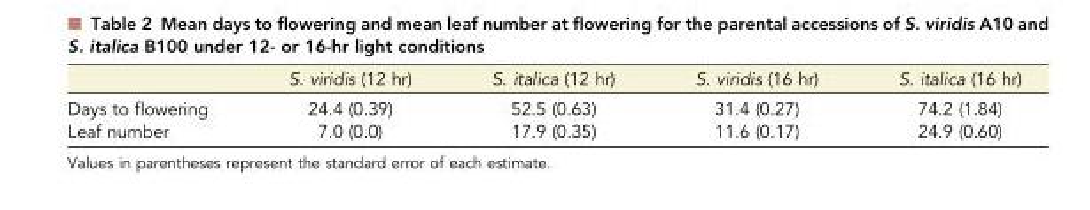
<table><thead><tr><td></td><td>S. viridis (12 hr)</td><td>S. italica (12 hr)</td><td>S. viridis (16 hr)</td><td>S. italica (16 hr)</td></tr></thead><tbody><tr><td>Days to flowering</td><td>24.4 (0.39)</td><td>52.5 (0.63)</td><td>31.4 (0.27)</td><td>74.2 (1.84)</td></tr><tr><td>Leaf number</td><td>7.0 (0.0)</td><td>17.9 (0.35)</td><td>11.6 (0.17)</td><td>24.9 (0.60)</td></tr></tbody></table>